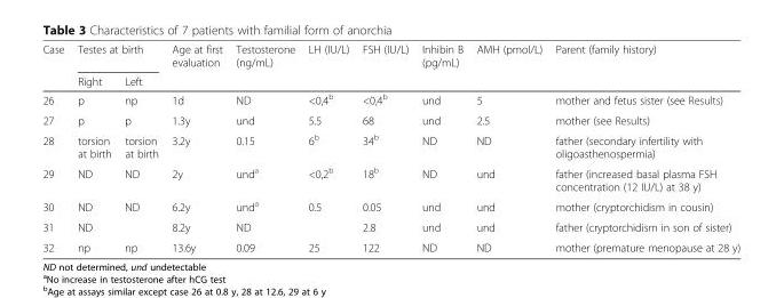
<table><thead><tr><td rowspan="2">Case</td><td colspan="2">Testes at birth</td><td rowspan="2">Age at first evaluation</td><td rowspan="2">Testosterone (ng/mL)</td><td rowspan="2">LH (IU/L)</td><td rowspan="2">FSH (IU/L)</td><td rowspan="2">Inhibin B (pg/mL)</td><td rowspan="2">AMH (pmol/L)</td><td rowspan="2">Parent (family history)</td></tr><tr><td>Right</td><td>Left</td></tr></thead><tbody><tr><td>26</td><td>p</td><td>np</td><td>1d</td><td>ND</td><td>&lt;0,4<sup>b</sup></td><td>&lt;0,4<sup>b</sup></td><td>und</td><td>5</td><td>mother and fetus sister (see Results)</td></tr><tr><td>27</td><td>p</td><td>p</td><td>1.3y</td><td>und</td><td>5.5</td><td>68</td><td>und</td><td>2.5</td><td>mother (see Results)</td></tr><tr><td>28</td><td>torsion at birth</td><td>torsion at birth</td><td>3.2y</td><td>0.15</td><td>6<sup>b</sup></td><td>34<sup>b</sup></td><td>ND</td><td>ND</td><td>father (secondary infertility with oligoasthenospermia)</td></tr><tr><td>29</td><td>ND</td><td>ND</td><td>2y</td><td>und<sup>a</sup></td><td>&lt;0,2<sup>b</sup></td><td>18<sup>b</sup></td><td>ND</td><td>und</td><td>father (increased basal plasma FSH concentration (12 IU/L) at 38 y)</td></tr><tr><td>30</td><td>ND</td><td>ND</td><td>6.2y</td><td>und<sup>a</sup></td><td>0.5</td><td>0.05</td><td>und</td><td>und</td><td>mother (cryptorchidism in cousin)</td></tr><tr><td>31</td><td>ND</td><td></td><td>8.2y</td><td>ND</td><td></td><td>2.8</td><td>und</td><td>und</td><td>father (cryptorchidism in son of sister)</td></tr><tr><td>32</td><td>np</td><td>np</td><td>13.6y</td><td>0.09</td><td>25</td><td>122</td><td>ND</td><td>ND</td><td>mother (premature menopause at 28 y)</td></tr></tbody></table>